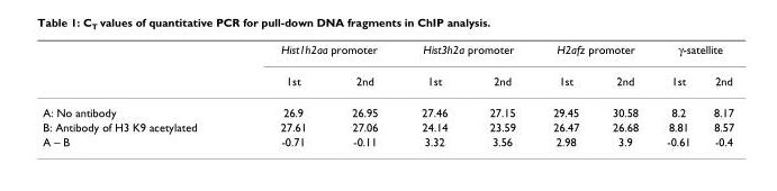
<table><thead><tr><td rowspan="2"></td><td colspan="2">Hist1h2aa promoter</td><td colspan="2">Hist3h2a promoter</td><td colspan="2">H2afz promoter</td><td colspan="2">γ-satellite</td></tr><tr><td>1st</td><td>2nd</td><td>1st</td><td>2nd</td><td>1st</td><td>2nd</td><td>1st</td><td>2nd</td></tr></thead><tbody><tr><td>A: No antibody</td><td>26.9</td><td>26.95</td><td>27.46</td><td>27.15</td><td>29.45</td><td>30.58</td><td>8.2</td><td>8.17</td></tr><tr><td>B: Antibody of H3 K9 acetylated</td><td>27.61</td><td>27.06</td><td>24.14</td><td>23.59</td><td>26.47</td><td>26.68</td><td>8.81</td><td>8.57</td></tr><tr><td>A – B</td><td>-0.71</td><td>-0.11</td><td>3.32</td><td>3.56</td><td>2.98</td><td>3.9</td><td>-0.61</td><td>-0.4</td></tr></tbody></table>